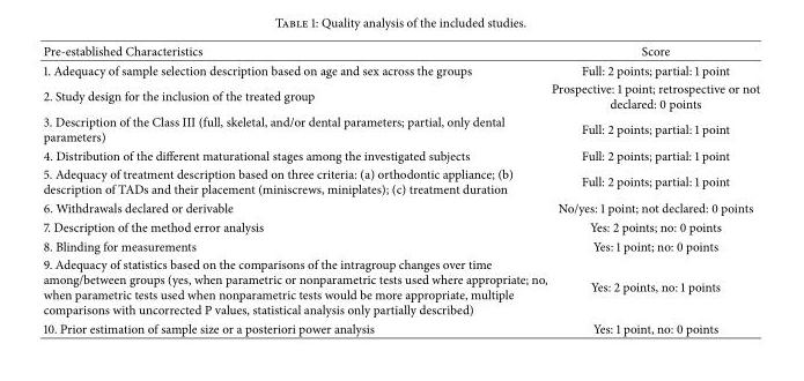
<table><thead><tr><td>Pre-established Characteristics</td><td>Score</td></tr></thead><tbody><tr><td>1. Adequacy of sample selection description based on age and sex across the groups</td><td>Full: 2 points; partial: 1 point</td></tr><tr><td>2. Study design for the inclusion of the treated group</td><td>Prospective: 1 point; retrospective or not declared: 0 points</td></tr><tr><td>3. Description of the Class III (full, skeletal, and/or dental parameters; partial, only dental parameters)</td><td>Full: 2 points; partial: 1 point</td></tr><tr><td>4. Distribution of the different maturational stages among the investigated subjects</td><td>Full: 2 points; partial: 1 point</td></tr><tr><td>5. Adequacy of treatment description based on three criteria: (a) orthodontic appliance; (b) description of TADs and their placement (miniscrews, miniplates); (c) treatment duration</td><td>Full: 2 points; partial: 1 point</td></tr><tr><td>6. Withdrawals declared or derivable</td><td>No/yes: 1 point; not declared: 0 points</td></tr><tr><td>7. Description of the method error analysis</td><td>Yes: 2 points; no: 0 points</td></tr><tr><td>8. Blinding for measurements</td><td>Yes: 1 point; no: 0 points</td></tr><tr><td>9. Adequacy of statistics based on the comparisons of the intragroup changes over time among/between groups (yes, when parametric or nonparametric tests used where appropriate; no, when parametric tests used when nonparametric tests would be more appropriate, multiple comparisons with uncorrected P values, statistical analysis only partially described)</td><td>Yes: 2 points, no: 1 points</td></tr><tr><td>10. Prior estimation of sample size or a posteriori power analysis</td><td>Yes: 1 point, no: 0 points</td></tr></tbody></table>